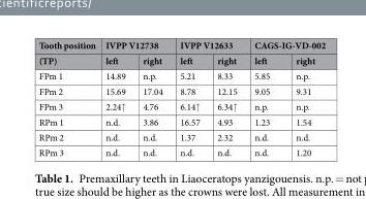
<table><thead><tr><td rowspan="2">Tooth position (TP)</td><td colspan="2">IVPP V12738</td><td colspan="2">IVPP V12633</td><td colspan="2">CAGS-IG-VD-002</td></tr><tr><td>left</td><td>right</td><td>left</td><td>right</td><td>left</td><td>right</td></tr></thead><tbody><tr><td>FPm 1</td><td>14.89</td><td>n.p.</td><td>5.21</td><td>8.33</td><td>5.85</td><td>n.p.</td></tr><tr><td>FPm 2</td><td>15.69</td><td>17.04</td><td>8.78</td><td>12.15</td><td>9.05</td><td>9.31</td></tr><tr><td>FPm 3</td><td>2.24↑</td><td>4.76</td><td>6.14↑</td><td>6.34↑</td><td>n.p.</td><td>n.p.</td></tr><tr><td>RPm 1</td><td>n.d.</td><td>3.86</td><td>16.57</td><td>4.93</td><td>1.23</td><td>1.54</td></tr><tr><td>RPm 2</td><td>n.d.</td><td>n.d.</td><td>1.37</td><td>2.32</td><td>n.d.</td><td>n.d.</td></tr><tr><td>RPm 3</td><td>n.d.</td><td>n.d.</td><td>n.d.</td><td>n.d.</td><td>n.d.</td><td>1.20</td></tr></tbody></table>